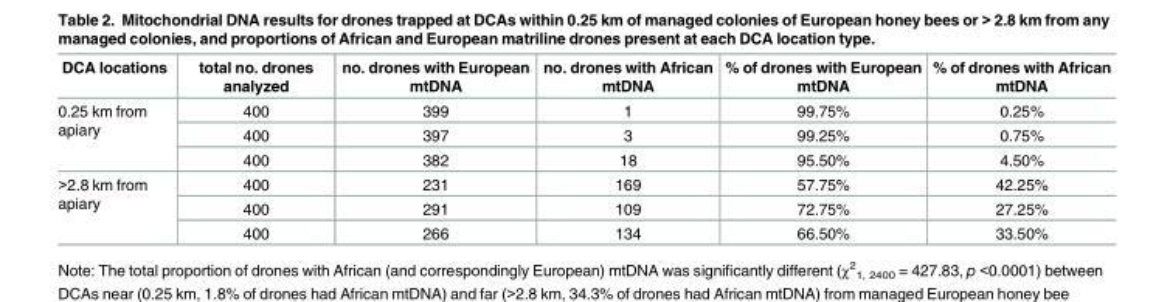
<table><thead><tr><td>DCA locations</td><td>total no. drones analyzed</td><td>no. drones with European mtDNA</td><td>no. drones with African mtDNA</td><td>% of drones with European mtDNA</td><td>% of drones with African mtDNA</td></tr></thead><tbody><tr><td rowspan="3">0.25 km from apiary</td><td>400</td><td>399</td><td>1</td><td>99.75%</td><td>0.25%</td></tr><tr><td>400</td><td>397</td><td>3</td><td>99.25%</td><td>0.75%</td></tr><tr><td>400</td><td>382</td><td>18</td><td>95.50%</td><td>4.50%</td></tr><tr><td rowspan="3">&gt;2.8 km from apiary</td><td>400</td><td>231</td><td>169</td><td>57.75%</td><td>42.25%</td></tr><tr><td>400</td><td>291</td><td>109</td><td>72.75%</td><td>27.25%</td></tr><tr><td>400</td><td>266</td><td>134</td><td>66.50%</td><td>33.50%</td></tr></tbody></table>